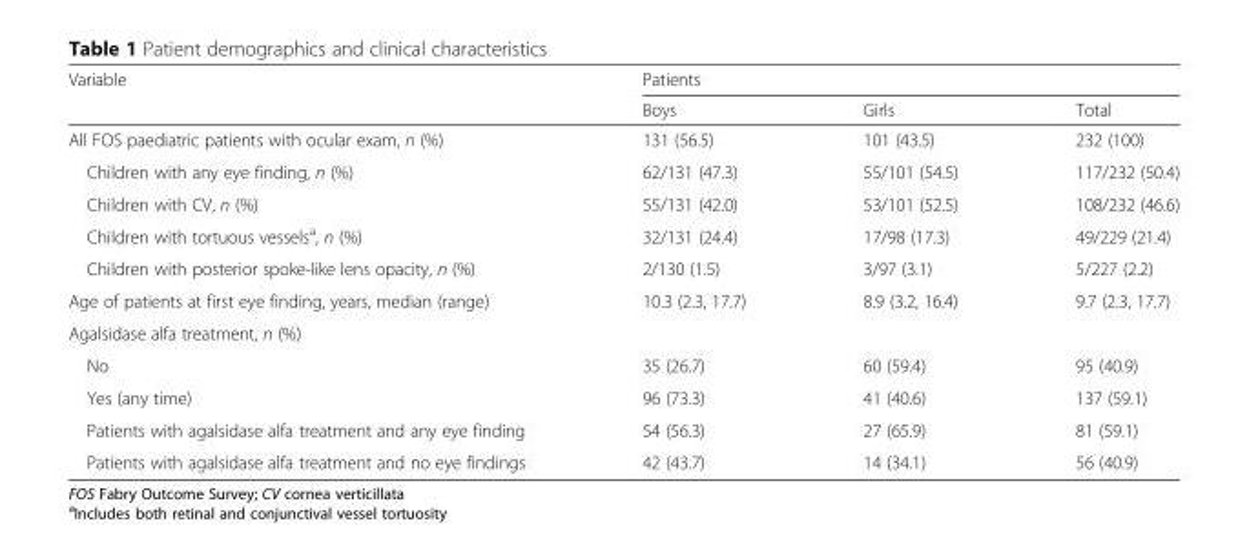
<table><thead><tr><td rowspan="2">Variable</td><td colspan="3">Patients</td></tr><tr><td>Boys</td><td>Girls</td><td>Total</td></tr></thead><tbody><tr><td>All FOS paediatric patients with ocular exam, n (%)</td><td>131 (56.5)</td><td>101 (43.5)</td><td>232 (100)</td></tr><tr><td>Children with any eye finding, n (%)</td><td>62/131 (47.3)</td><td>55/101 (54.5)</td><td>117/232 (50.4)</td></tr><tr><td>Children with CV, n (%)</td><td>55/131 (42.0)</td><td>53/101 (52.5)</td><td>108/232 (46.6)</td></tr><tr><td>Children with tortuous vessels<sup>a</sup>, n (%)</td><td>32/131 (24.4)</td><td>17/98 (17.3)</td><td>49/229 (21.4)</td></tr><tr><td>Children with posterior spoke-like lens opacity, n (%)</td><td>2/130 (1.5)</td><td>3/97 (3.1)</td><td>5/227 (2.2)</td></tr><tr><td>Age of patients at first eye finding, years, median (range)</td><td>10.3 (2.3, 17.7)</td><td>8.9 (3.2, 16.4)</td><td>9.7 (2.3, 17.7)</td></tr><tr><td colspan="4">Agalsidase alfa treatment, n (%)</td></tr><tr><td>No</td><td>35 (26.7)</td><td>60 (59.4)</td><td>95 (40.9)</td></tr><tr><td>Yes (any time)</td><td>96 (73.3)</td><td>41 (40.6)</td><td>137 (59.1)</td></tr><tr><td>Patients with agalsidase alfa treatment and any eye finding</td><td>54 (56.3)</td><td>27 (65.9)</td><td>81 (59.1)</td></tr><tr><td>Patients with agalsidase alfa treatment and no eye findings</td><td>42 (43.7)</td><td>14 (34.1)</td><td>56 (40.9)</td></tr></tbody></table>